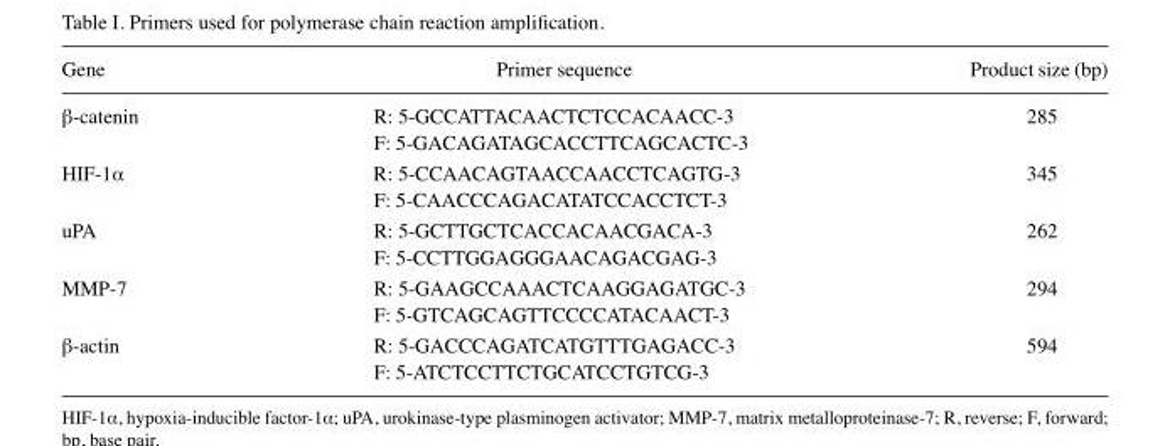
<table><thead><tr><td>Gene</td><td>Primer sequence</td><td>Product size (bp)</td></tr></thead><tbody><tr><td>β-catenin</td><td>R: 5-GCCATTACAACTCTCCACAACC-3 F: 5-GACAGATAGCACCTTCAGCACTC-3</td><td>285</td></tr><tr><td>HIF-1α</td><td>R: 5-CCAACAGTAACCAACCTCAGTG-3 F: 5-CAACCCAGACATATCCACCTCT-3</td><td>345</td></tr><tr><td>uPA</td><td>R: 5-GCTTGCTCACCACAACGACA-3 F: 5-CCTTGGAGGGAACAGACGAG-3</td><td>262</td></tr><tr><td>MMP-7</td><td>R: 5-GAAGCCAAACTCAAGGAGATGC-3 F: 5-GTCAGCAGTTCCCCATACAACT-3</td><td>294</td></tr><tr><td>β-actin</td><td>R: 5-GACCCAGATCATGTTTGAGACC-3 F: 5-ATCTCCTTCTGCATCCTGTCG-3</td><td>594</td></tr></tbody></table>